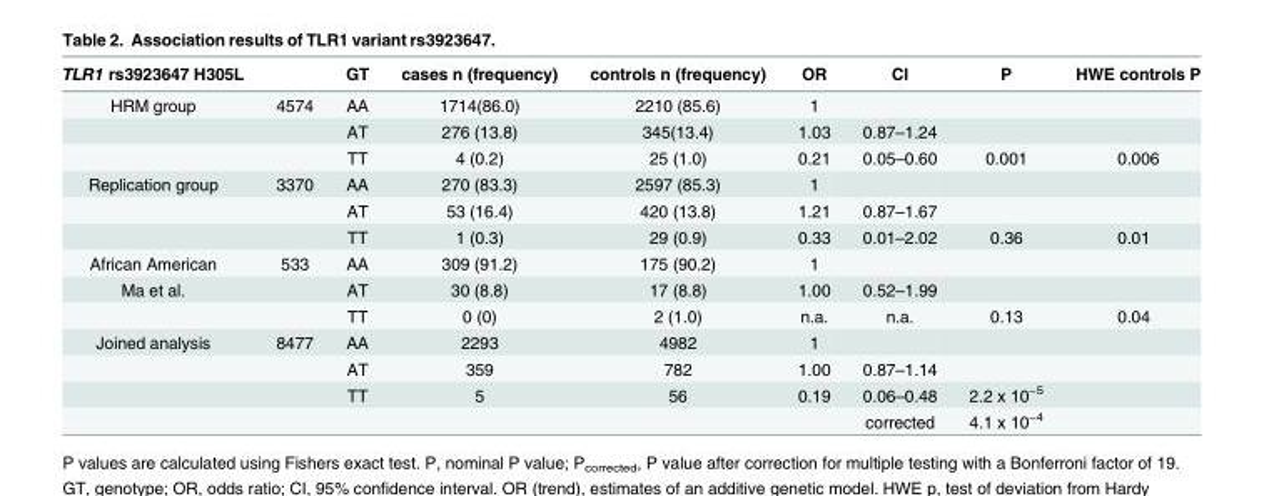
<table><thead><tr><td>TLR1 rs3923647 H305L</td><td></td><td>GT</td><td>cases n (frequency)</td><td>controls n (frequency)</td><td>OR</td><td>CI</td><td>P</td><td>HWE controls P</td></tr></thead><tbody><tr><td rowspan="3">HRM group</td><td>4574</td><td>AA</td><td>1714(86.0)</td><td>2210 (85.6)</td><td>1</td><td></td><td></td><td></td></tr><tr><td></td><td>AT</td><td>276 (13.8)</td><td>345(13.4)</td><td>1.03</td><td>0.87–1.24</td><td></td><td></td></tr><tr><td></td><td>TT</td><td>4 (0.2)</td><td>25 (1.0)</td><td>0.21</td><td>0.05–0.60</td><td>0.001</td><td>0.006</td></tr><tr><td rowspan="3">Replication group</td><td>3370</td><td>AA</td><td>270 (83.3)</td><td>2597 (85.3)</td><td>1</td><td></td><td></td><td></td></tr><tr><td></td><td>AT</td><td>53 (16.4)</td><td>420 (13.8)</td><td>1.21</td><td>0.87–1.67</td><td></td><td></td></tr><tr><td></td><td>TT</td><td>1 (0.3)</td><td>29 (0.9)</td><td>0.33</td><td>0.01–2.02</td><td>0.36</td><td>0.01</td></tr><tr><td>African American</td><td>533</td><td>AA</td><td>309 (91.2)</td><td>175 (90.2)</td><td>1</td><td></td><td></td><td></td></tr><tr><td rowspan="2">Ma et al.</td><td></td><td>AT</td><td>30 (8.8)</td><td>17 (8.8)</td><td>1.00</td><td>0.52–1.99</td><td></td><td></td></tr><tr><td></td><td>TT</td><td>0 (0)</td><td>2 (1.0)</td><td>n.a.</td><td>n.a.</td><td>0.13</td><td>0.04</td></tr><tr><td rowspan="4">Joined analysis</td><td>8477</td><td>AA</td><td>2293</td><td>4982</td><td>1</td><td></td><td></td><td></td></tr><tr><td></td><td>AT</td><td>359</td><td>782</td><td>1.00</td><td>0.87–1.14</td><td></td><td></td></tr><tr><td></td><td>TT</td><td>5</td><td>56</td><td>0.19</td><td>0.06–0.48</td><td>2.2 x 10<sup>−5</sup></td><td></td></tr><tr><td></td><td></td><td></td><td></td><td></td><td>corrected</td><td>4.1 x 10<sup>−4</sup></td><td></td></tr></tbody></table>